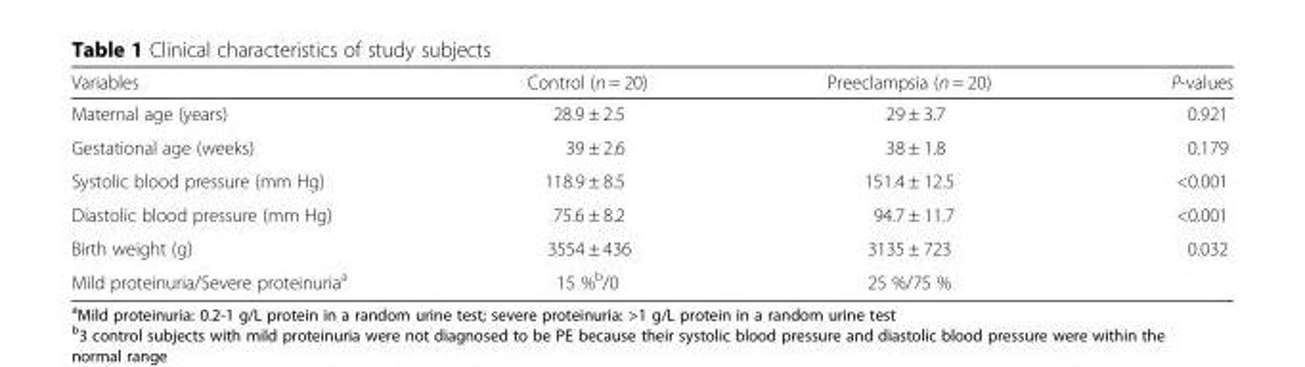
<table><thead><tr><td>Variables</td><td>Control (n = 20)</td><td>Preeclampsia (n = 20)</td><td>P-values</td></tr></thead><tbody><tr><td>Maternal age (years)</td><td>28.9 ± 2.5</td><td>29 ± 3.7</td><td>0.921</td></tr><tr><td>Gestational age (weeks)</td><td>39 ± 2.6</td><td>38 ± 1.8</td><td>0.179</td></tr><tr><td>Systolic blood pressure (mm Hg)</td><td>118.9 ± 8.5</td><td>151.4 ± 12.5</td><td>&lt;0.001</td></tr><tr><td>Diastolic blood pressure (mm Hg)</td><td>75.6 ± 8.2</td><td>94.7 ± 11.7</td><td>&lt;0.001</td></tr><tr><td>Birth weight (g)</td><td>3554 ± 436</td><td>3135 ± 723</td><td>0.032</td></tr><tr><td>Mild proteinuria/Severe proteinuria<sup>a</sup></td><td>15 %<sup>b</sup>/0</td><td>25 %/75 %</td><td></td></tr></tbody></table>